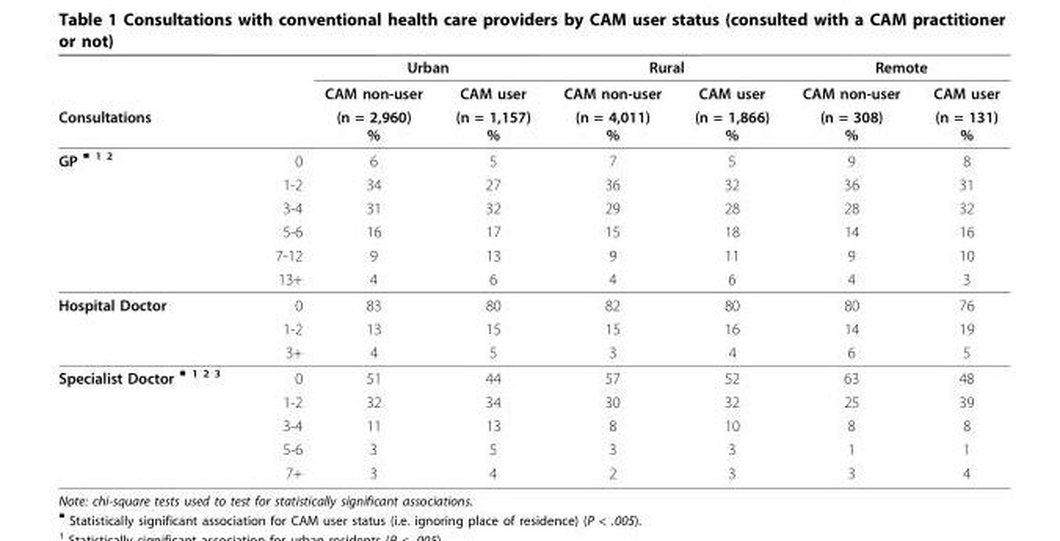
<table><thead><tr><td rowspan="3">Consultations</td><td rowspan="3"></td><td colspan="2">Urban</td><td colspan="2">Rural</td><td colspan="2">Remote</td></tr><tr><td rowspan="2">CAM non-user (n = 2,960) %</td><td rowspan="2">CAM user (n = 1,157) %</td><td rowspan="2">CAM non-user (n = 4,011) %</td><td rowspan="2">CAM user (n = 1,866) %</td><td rowspan="2">CAM non-user (n = 308) %</td><td rowspan="2">CAM user (n = 131) %</td></tr><tr></tr></thead><tbody><tr><td rowspan="6">GP <sup>■ 1 2</sup></td><td>0</td><td>6</td><td>5</td><td>7</td><td>5</td><td>9</td><td>8</td></tr><tr><td>1-2</td><td>34</td><td>27</td><td>36</td><td>32</td><td>36</td><td>31</td></tr><tr><td>3-4</td><td>31</td><td>32</td><td>29</td><td>28</td><td>28</td><td>32</td></tr><tr><td>5-6</td><td>16</td><td>17</td><td>15</td><td>18</td><td>14</td><td>16</td></tr><tr><td>7-12</td><td>9</td><td>13</td><td>9</td><td>11</td><td>9</td><td>10</td></tr><tr><td>13+</td><td>4</td><td>6</td><td>4</td><td>6</td><td>4</td><td>3</td></tr><tr><td rowspan="3">Hospital Doctor</td><td>0</td><td>83</td><td>80</td><td>82</td><td>80</td><td>80</td><td>76</td></tr><tr><td>1-2</td><td>13</td><td>15</td><td>15</td><td>16</td><td>14</td><td>19</td></tr><tr><td>3+</td><td>4</td><td>5</td><td>3</td><td>4</td><td>6</td><td>5</td></tr><tr><td rowspan="5">Specialist Doctor <sup>■ 1 2 3</sup></td><td>0</td><td>51</td><td>44</td><td>57</td><td>52</td><td>63</td><td>48</td></tr><tr><td>1-2</td><td>32</td><td>34</td><td>30</td><td>32</td><td>25</td><td>39</td></tr><tr><td>3-4</td><td>11</td><td>13</td><td>8</td><td>10</td><td>8</td><td>8</td></tr><tr><td>5-6</td><td>3</td><td>5</td><td>3</td><td>3</td><td>1</td><td>1</td></tr><tr><td>7+</td><td>3</td><td>4</td><td>2</td><td>3</td><td>3</td><td>4</td></tr></tbody></table>